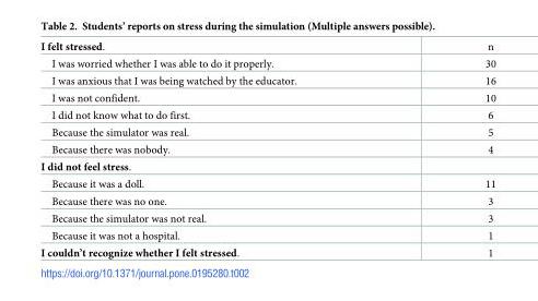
<table><tbody><tr><td>I felt stressed.</td><td>n</td></tr><tr><td>I was worried whether I was able to do it properly.</td><td>30</td></tr><tr><td>I was anxious that I was being watched by the educator.</td><td>16</td></tr><tr><td>I was not confident.</td><td>10</td></tr><tr><td>I did not know what to do first.</td><td>6</td></tr><tr><td>Because the simulator was real.</td><td>5</td></tr><tr><td>Because there was nobody.</td><td>4</td></tr><tr><td colspan="2">I did not feel stress.</td></tr><tr><td>Because it was a doll.</td><td>11</td></tr><tr><td>Because there was no one.</td><td>3</td></tr><tr><td>Because the simulator was not real.</td><td>3</td></tr><tr><td>Because it was not a hospital.</td><td>1</td></tr><tr><td>I couldn’t recognize whether I felt stressed.</td><td>1</td></tr></tbody></table>